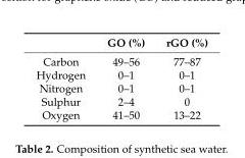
<table><thead><tr><td></td><td>GO (%)</td><td>rGO (%)</td></tr></thead><tbody><tr><td>Carbon</td><td>49–56</td><td>77–87</td></tr><tr><td>Hydrogen</td><td>0–1</td><td>0–1</td></tr><tr><td>Nitrogen</td><td>0–1</td><td>0–1</td></tr><tr><td>Sulphur</td><td>2–4</td><td>0</td></tr><tr><td>Oxygen</td><td>41–50</td><td>13–22</td></tr></tbody></table>